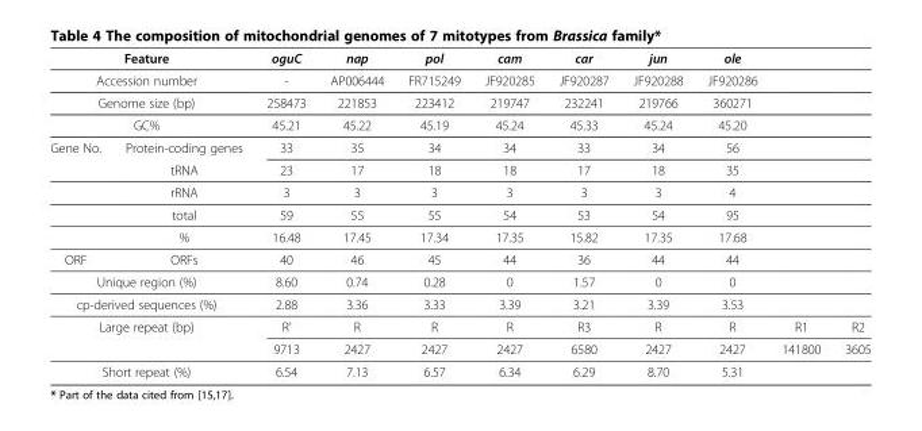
<table><thead><tr><td colspan="2">Feature</td><td>oguC</td><td>nap</td><td>pol</td><td>cam</td><td>car</td><td>jun</td><td>ole</td><td></td><td></td></tr></thead><tbody><tr><td colspan="2">Accession number</td><td>-</td><td>AP006444</td><td>FR715249</td><td>JF920285</td><td>JF920287</td><td>JF920288</td><td>JF920286</td><td></td><td></td></tr><tr><td colspan="2">Genome size (bp)</td><td>258473</td><td>221853</td><td>223412</td><td>219747</td><td>232241</td><td>219766</td><td>360271</td><td></td><td></td></tr><tr><td colspan="2">GC%</td><td>45.21</td><td>45.22</td><td>45.19</td><td>45.24</td><td>45.33</td><td>45.24</td><td>45.20</td><td></td><td></td></tr><tr><td rowspan="5">Gene No.</td><td>Protein-coding genes</td><td>33</td><td>35</td><td>34</td><td>34</td><td>33</td><td>34</td><td>56</td><td></td><td></td></tr><tr><td>tRNA</td><td>23</td><td>17</td><td>18</td><td>18</td><td>17</td><td>18</td><td>35</td><td></td><td></td></tr><tr><td>rRNA</td><td>3</td><td>3</td><td>3</td><td>3</td><td>3</td><td>3</td><td>4</td><td></td><td></td></tr><tr><td>total</td><td>59</td><td>55</td><td>55</td><td>54</td><td>53</td><td>54</td><td>95</td><td></td><td></td></tr><tr><td>%</td><td>16.48</td><td>17.45</td><td>17.34</td><td>17.35</td><td>15.82</td><td>17.35</td><td>17.68</td><td></td><td></td></tr><tr><td>ORF</td><td>ORFs</td><td>40</td><td>46</td><td>45</td><td>44</td><td>36</td><td>44</td><td>44</td><td></td><td></td></tr><tr><td colspan="2">Unique region (%)</td><td>8.60</td><td>0.74</td><td>0.28</td><td>0</td><td>1.57</td><td>0</td><td>0</td><td></td><td></td></tr><tr><td colspan="2">cp-derived sequences (%)</td><td>2.88</td><td>3.36</td><td>3.33</td><td>3.39</td><td>3.21</td><td>3.39</td><td>3.53</td><td></td><td></td></tr><tr><td rowspan="2" colspan="2">Large repeat (bp)</td><td>R’</td><td>R</td><td>R</td><td>R</td><td>R3</td><td>R</td><td>R</td><td>R1</td><td>R2</td></tr><tr><td>9713</td><td>2427</td><td>2427</td><td>2427</td><td>6580</td><td>2427</td><td>2427</td><td>141800</td><td>3605</td></tr><tr><td colspan="2">Short repeat (%)</td><td>6.54</td><td>7.13</td><td>6.57</td><td>6.34</td><td>6.29</td><td>8.70</td><td>5.31</td><td></td><td></td></tr></tbody></table>